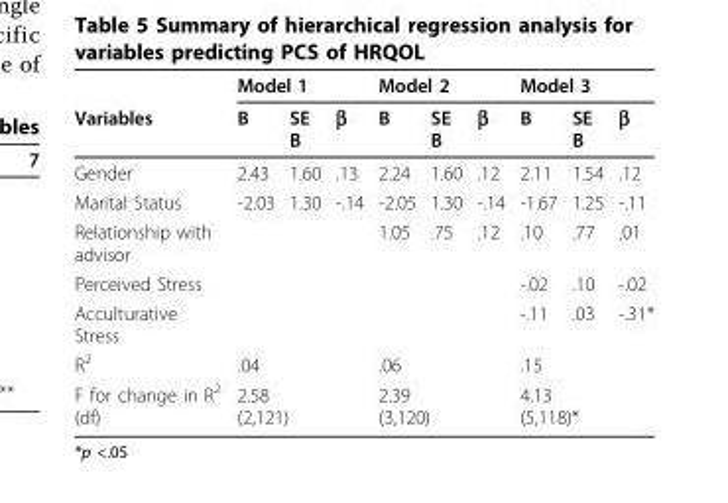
<table><thead><tr><td rowspan="2">Variables</td><td colspan="2">Model 1</td><td rowspan="2">β</td><td colspan="2">Model 2</td><td rowspan="2">β</td><td colspan="2">Model 3</td><td rowspan="2">β</td></tr><tr><td>B</td><td>SE B</td><td>B</td><td>SE B</td><td>B</td><td>SE B</td></tr></thead><tbody><tr><td>Gender</td><td>2.43</td><td>1.60</td><td>.13</td><td>2.24</td><td>1.60</td><td>.12</td><td>2.11</td><td>1.54</td><td>.12</td></tr><tr><td>Marital Status</td><td>-2.03</td><td>1.30</td><td>-.14</td><td>-2.05</td><td>1.30</td><td>-.14</td><td>-1.67</td><td>1.25</td><td>-.11</td></tr><tr><td>Relationship with advisor</td><td></td><td></td><td></td><td>1.05</td><td>.75</td><td>.12</td><td>.10</td><td>.77</td><td>.01</td></tr><tr><td>Perceived Stress</td><td></td><td></td><td></td><td></td><td></td><td></td><td>-.02</td><td>.10</td><td>-.02</td></tr><tr><td>Acculturative Stress</td><td></td><td></td><td></td><td></td><td></td><td></td><td>-.11</td><td>.03</td><td>-.31*</td></tr><tr><td>R<sup>2</sup></td><td>.04</td><td></td><td></td><td>.06</td><td></td><td></td><td>.15</td><td></td><td></td></tr><tr><td>F for change in R<sup>2</sup> (df)</td><td colspan="2">2.58 (2,121)</td><td></td><td colspan="2">2.39 (3,120)</td><td></td><td colspan="2">4.13 (5,118)*</td><td></td></tr></tbody></table>